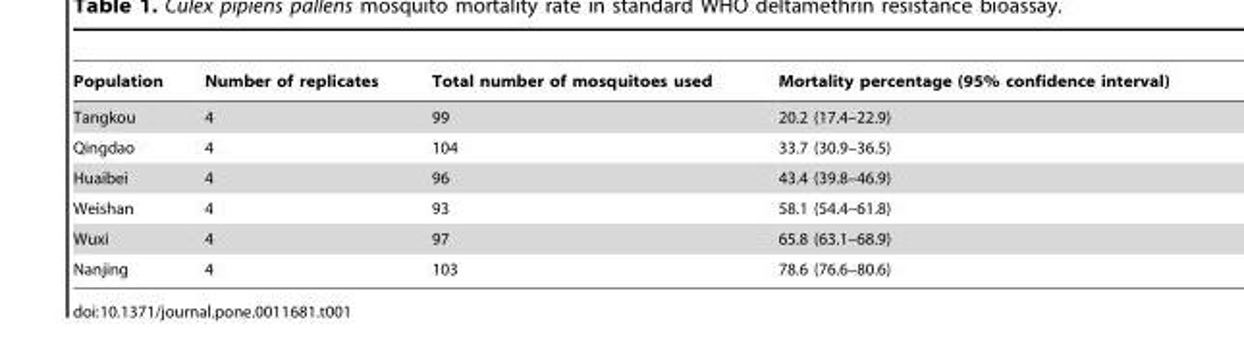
<table><thead><tr><td>Population</td><td>Number of replicates</td><td>Total number of mosquitoes used</td><td>Mortality percentage (95% confidence interval)</td></tr></thead><tbody><tr><td>Tangkou</td><td>4</td><td>99</td><td>20.2 (17.4–22.9)</td></tr><tr><td>Qingdao</td><td>4</td><td>104</td><td>33.7 (30.9–36.5)</td></tr><tr><td>Huaibei</td><td>4</td><td>96</td><td>43.4 (39.8–46.9)</td></tr><tr><td>Weishan</td><td>4</td><td>93</td><td>58.1 (54.4–61.8)</td></tr><tr><td>Wuxi</td><td>4</td><td>97</td><td>65.8 (63.1–68.9)</td></tr><tr><td>Nanjing</td><td>4</td><td>103</td><td>78.6 (76.6–80.6)</td></tr></tbody></table>